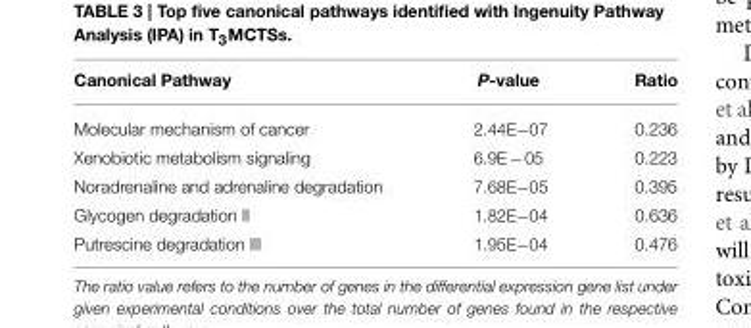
<table><thead><tr><td>Canonical Pathway</td><td>P-value</td><td>Ratio</td></tr></thead><tbody><tr><td>Molecular mechanism of cancer</td><td>2.44E−07</td><td>0.236</td></tr><tr><td>Xenobiotic metabolism signaling</td><td>6.9E−05</td><td>0.223</td></tr><tr><td>Noradrenaline and adrenaline degradation</td><td>7.68E−05</td><td>0.395</td></tr><tr><td>Glycogen degradation II</td><td>1.82E−04</td><td>0.636</td></tr><tr><td>Putrescine degradation III</td><td>1.95E−04</td><td>0.476</td></tr></tbody></table>